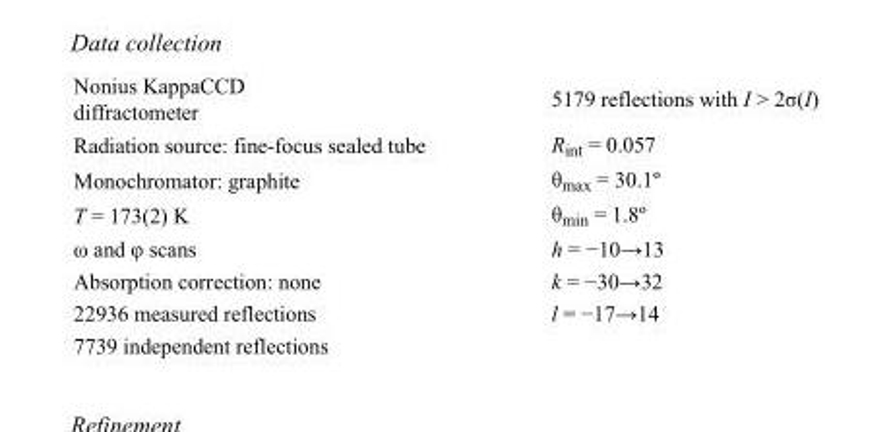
<table><tbody><tr><td>Nonius KappaCCD diffractometer</td><td>5179 reflections with I &gt; 2σ(I)</td></tr><tr><td>Radiation source: fine-focus sealed tube</td><td>R<sub>int</sub> = 0.057</td></tr><tr><td>Monochromator: graphite</td><td>θ<sub>max</sub> = 30.1º</td></tr><tr><td>T = 173(2) K</td><td>θ<sub>min</sub> = 1.8º</td></tr><tr><td>ω and φ scans</td><td>h = −10→13</td></tr><tr><td>Absorption correction: none</td><td>k = −30→32</td></tr><tr><td>22936 measured reflections</td><td>l = −17→14</td></tr><tr><td>7739 independent reflections</td><td></td></tr></tbody></table>